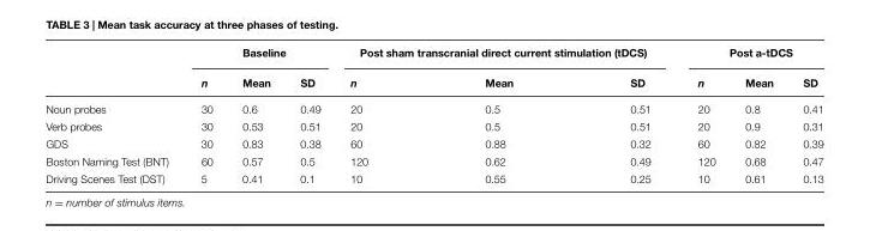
<table><thead><tr><td rowspan="2"></td><td colspan="3">Baseline</td><td colspan="3">Post sham transcranial direct current stimulation (tDCS)</td><td colspan="3">Post a-tDCS</td></tr><tr><td>n</td><td>Mean</td><td>SD</td><td>n</td><td>Mean</td><td>SD</td><td>n</td><td>Mean</td><td>SD</td></tr></thead><tbody><tr><td>Noun probes</td><td>30</td><td>0.6</td><td>0.49</td><td>20</td><td>0.5</td><td>0.51</td><td>20</td><td>0.8</td><td>0.41</td></tr><tr><td>Verb probes</td><td>30</td><td>0.53</td><td>0.51</td><td>20</td><td>0.5</td><td>0.51</td><td>20</td><td>0.9</td><td>0.31</td></tr><tr><td>GDS</td><td>30</td><td>0.83</td><td>0.38</td><td>60</td><td>0.88</td><td>0.32</td><td>60</td><td>0.82</td><td>0.39</td></tr><tr><td>Boston Naming Test (BNT)</td><td>60</td><td>0.57</td><td>0.5</td><td>120</td><td>0.62</td><td>0.49</td><td>120</td><td>0.68</td><td>0.47</td></tr><tr><td>Driving Scenes Test (DST)</td><td>5</td><td>0.41</td><td>0.1</td><td>10</td><td>0.55</td><td>0.25</td><td>10</td><td>0.61</td><td>0.13</td></tr></tbody></table>